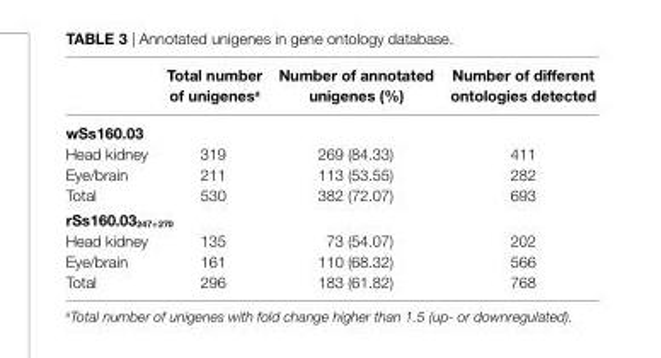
<table><thead><tr><td></td><td>Total number of unigenes<sup>a</sup></td><td>number of annotated unigenes (%)</td><td>number of different ontologies detected</td></tr></thead><tbody><tr><td colspan="4">wss160.03</td></tr><tr><td>Head kidney</td><td>319</td><td>269 (84.33)</td><td>411</td></tr><tr><td>Eye/brain</td><td>211</td><td>113 (53.55)</td><td>282</td></tr><tr><td>Total</td><td>530</td><td>382 (72.07)</td><td>693</td></tr><tr><td colspan="4">rss160.03<sub>247+270</sub></td></tr><tr><td>Head kidney</td><td>135</td><td>73 (54.07)</td><td>202</td></tr><tr><td>Eye/brain</td><td>161</td><td>110 (68.32)</td><td>566</td></tr><tr><td>Total</td><td>296</td><td>183 (61.82)</td><td>768</td></tr></tbody></table>